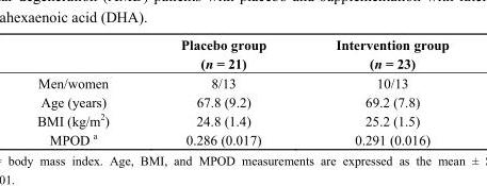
<table><thead><tr><td></td><td>Placebo group (n = 21)</td><td>Intervention group (n = 23)</td></tr></thead><tbody><tr><td>Men/women</td><td>8/13</td><td>10/13</td></tr><tr><td>Age (years)</td><td>67.8 (9.2)</td><td>69.2 (7.8)</td></tr><tr><td>BMI (kg/m<sup>2</sup>)</td><td>24.8 (1.4)</td><td>25.2 (1.5)</td></tr><tr><td>MPOD <sup>a</sup></td><td>0.286 (0.017)</td><td>0.291 (0.016)</td></tr></tbody></table>